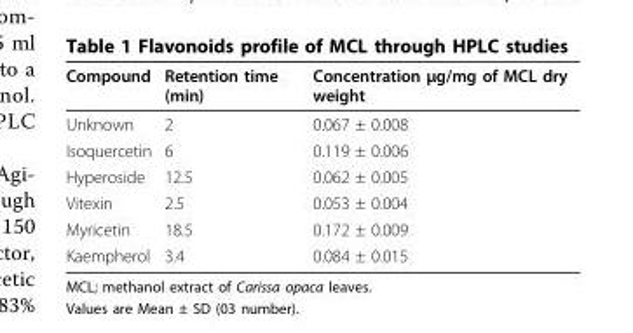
<table><thead><tr><td>Compound</td><td>Retention time (min)</td><td>Concentration μg/mg of MCL dry weight</td></tr></thead><tbody><tr><td>Unknown</td><td>2</td><td>0.067 ± 0.008</td></tr><tr><td>Isoquercetin</td><td>6</td><td>0.119 ± 0.006</td></tr><tr><td>Hyperoside</td><td>12.5</td><td>0.062 ± 0.005</td></tr><tr><td>Vitexin</td><td>2.5</td><td>0.053 ± 0.004</td></tr><tr><td>Myricetin</td><td>18.5</td><td>0.172 ± 0.009</td></tr><tr><td>Kaempherol</td><td>3.4</td><td>0.084 ± 0.015</td></tr></tbody></table>